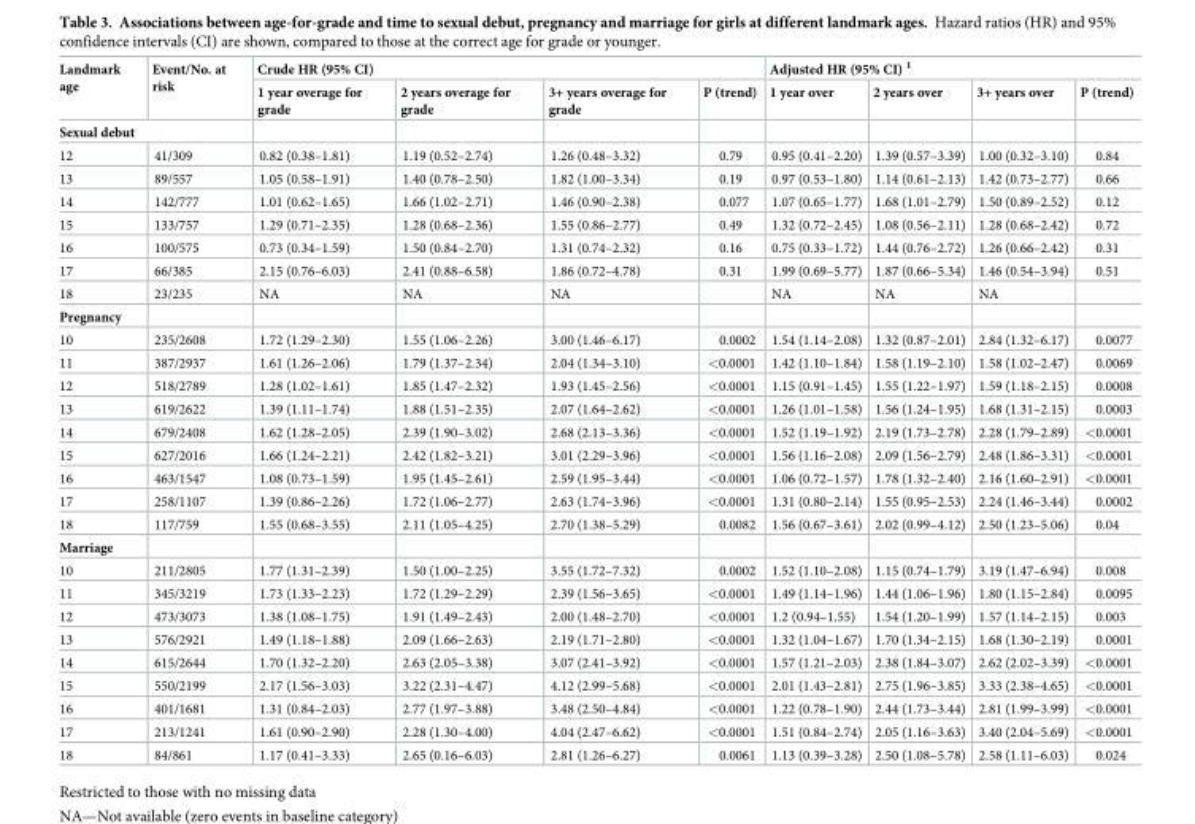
<table><thead><tr><td rowspan="2">Landmark age</td><td rowspan="2">Event/No. at risk</td><td colspan="4">Crude HR (95% CI)</td><td colspan="4">Adjusted HR (95% CI) <sup>1</sup></td></tr><tr><td>1 year overage for grade</td><td>2 years overage for grade</td><td>3+ years overage for grade</td><td>P (trend)</td><td>1 year over</td><td>2 years over</td><td>3+ years over</td><td>P (trend)</td></tr></thead><tbody><tr><td colspan="10">Sexual debut</td></tr><tr><td>12</td><td>41/309</td><td>0.82 (0.38–1.81)</td><td>1.19 (0.52–2.74)</td><td>1.26 (0.48–3.32)</td><td>0.79</td><td>0.95 (0.41–2.20)</td><td>1.39 (0.57–3.39)</td><td>1.00 (0.32–3.10)</td><td>0.84</td></tr><tr><td>13</td><td>89/557</td><td>1.05 (0.58–1.91)</td><td>1.40 (0.78–2.50)</td><td>1.82 (1.00–3.34)</td><td>0.19</td><td>0.97 (0.53–1.80)</td><td>1.14 (0.61–2.13)</td><td>1.42 (0.73–2.77)</td><td>0.66</td></tr><tr><td>14</td><td>142/777</td><td>1.01 (0.62–1.65)</td><td>1.66 (1.02–2.71)</td><td>1.46 (0.90–2.38)</td><td>0.077</td><td>1.07 (0.65–1.77)</td><td>1.68 (1.01–2.79)</td><td>1.50 (0.89–2.52)</td><td>0.12</td></tr><tr><td>15</td><td>133/757</td><td>1.29 (0.71–2.35)</td><td>1.28 (0.68–2.36)</td><td>1.55 (0.86–2.77)</td><td>0.49</td><td>1.32 (0.72–2.45)</td><td>1.08 (0.56–2.11)</td><td>1.28 (0.68–2.42)</td><td>0.72</td></tr><tr><td>16</td><td>100/575</td><td>0.73 (0.34–1.59)</td><td>1.50 (0.84–2.70)</td><td>1.31 (0.74–2.32)</td><td>0.16</td><td>0.75 (0.33–1.72)</td><td>1.44 (0.76–2.72)</td><td>1.26 (0.66–2.42)</td><td>0.31</td></tr><tr><td>17</td><td>66/385</td><td>2.15 (0.76–6.03)</td><td>2.41 (0.88–6.58)</td><td>1.86 (0.72–4.78)</td><td>0.31</td><td>1.99 (0.69–5.77)</td><td>1.87 (0.66–5.34)</td><td>1.46 (0.54–3.94)</td><td>0.51</td></tr><tr><td>18</td><td>23/235</td><td>NA</td><td>NA</td><td>NA</td><td></td><td>NA</td><td>NA</td><td>NA</td><td></td></tr><tr><td colspan="10">Pregnancy</td></tr><tr><td>10</td><td>235/2608</td><td>1.72 (1.29–2.30)</td><td>1.55 (1.06–2.26)</td><td>3.00 (1.46–6.17)</td><td>0.0002</td><td>1.54 (1.14–2.08)</td><td>1.32 (0.87–2.01)</td><td>2.84 (1.32–6.17)</td><td>0.0077</td></tr><tr><td>11</td><td>387/2937</td><td>1.61 (1.26–2.06)</td><td>1.79 (1.37–2.34)</td><td>2.04 (1.34–3.10)</td><td>&lt;0.0001</td><td>1.42 (1.10–1.84)</td><td>1.58 (1.19–2.10)</td><td>1.58 (1.02–2.47)</td><td>0.0069</td></tr><tr><td>12</td><td>518/2789</td><td>1.28 (1.02–1.61)</td><td>1.85 (1.47–2.32)</td><td>1.93 (1.45–2.56)</td><td>&lt;0.0001</td><td>1.15 (0.91–1.45)</td><td>1.55 (1.22–1.97)</td><td>1.59 (1.18–2.15)</td><td>0.0008</td></tr><tr><td>13</td><td>619/2622</td><td>1.39 (1.11–1.74)</td><td>1.88 (1.51–2.35)</td><td>2.07 (1.64–2.62)</td><td>&lt;0.0001</td><td>1.26 (1.01–1.58)</td><td>1.56 (1.24–1.95)</td><td>1.68 (1.31–2.15)</td><td>0.0003</td></tr><tr><td>14</td><td>679/2408</td><td>1.62 (1.28–2.05)</td><td>2.39 (1.90–3.02)</td><td>2.68 (2.13–3.36)</td><td>&lt;0.0001</td><td>1.52 (1.19–1.92)</td><td>2.19 (1.73–2.78)</td><td>2.28 (1.79–2.89)</td><td>&lt;0.0001</td></tr><tr><td>15</td><td>627/2016</td><td>1.66 (1.24–2.21)</td><td>2.42 (1.82–3.21)</td><td>3.01 (2.29–3.96)</td><td>&lt;0.0001</td><td>1.56 (1.16–2.08)</td><td>2.09 (1.56–2.79)</td><td>2.48 (1.86–3.31)</td><td>&lt;0.0001</td></tr><tr><td>16</td><td>463/1547</td><td>1.08 (0.73–1.59)</td><td>1.95 (1.45–2.61)</td><td>2.59 (1.95–3.44)</td><td>&lt;0.0001</td><td>1.06 (0.72–1.57)</td><td>1.78 (1.32–2.40)</td><td>2.16 (1.60–2.91)</td><td>&lt;0.0001</td></tr><tr><td>17</td><td>258/1107</td><td>1.39 (0.86–2.26)</td><td>1.72 (1.06–2.77)</td><td>2.63 (1.74–3.96)</td><td>&lt;0.0001</td><td>1.31 (0.80–2.14)</td><td>1.55 (0.95–2.53)</td><td>2.24 (1.46–3.44)</td><td>0.0002</td></tr><tr><td>18</td><td>117/759</td><td>1.55 (0.68–3.55)</td><td>2.11 (1.05–4.25)</td><td>2.70 (1.38–5.29)</td><td>0.0082</td><td>1.56 (0.67–3.61)</td><td>2.02 (0.99–4.12)</td><td>2.50 (1.23–5.06)</td><td>0.04</td></tr><tr><td colspan="10">Marriage</td></tr><tr><td>10</td><td>211/2805</td><td>1.77 (1.31–2.39)</td><td>1.50 (1.00–2.25)</td><td>3.55 (1.72–7.32)</td><td>0.0002</td><td>1.52 (1.10–2.08)</td><td>1.15 (0.74–1.79)</td><td>3.19 (1.47–6.94)</td><td>0.008</td></tr><tr><td>11</td><td>345/3219</td><td>1.73 (1.33–2.23)</td><td>1.72 (1.29–2.29)</td><td>2.39 (1.56–3.65)</td><td>&lt;0.0001</td><td>1.49 (1.14–1.96)</td><td>1.44 (1.06–1.96)</td><td>1.80 (1.15–2.84)</td><td>0.0095</td></tr><tr><td>12</td><td>473/3073</td><td>1.38 (1.08–1.75)</td><td>1.91 (1.49–2.43)</td><td>2.00 (1.48–2.70)</td><td>&lt;0.0001</td><td>1.2 (0.94–1.55)</td><td>1.54 (1.20–1.99)</td><td>1.57 (1.14–2.15)</td><td>0.003</td></tr><tr><td>13</td><td>576/2921</td><td>1.49 (1.18–1.88)</td><td>2.09 (1.66–2.63)</td><td>2.19 (1.71–2.80)</td><td>&lt;0.0001</td><td>1.32 (1.04–1.67)</td><td>1.70 (1.34–2.15)</td><td>1.68 (1.30–2.19)</td><td>0.0001</td></tr><tr><td>14</td><td>615/2644</td><td>1.70 (1.32–2.20)</td><td>2.63 (2.05–3.38)</td><td>3.07 (2.41–3.92)</td><td>&lt;0.0001</td><td>1.57 (1.21–2.03)</td><td>2.38 (1.84–3.07)</td><td>2.62 (2.02–3.39)</td><td>&lt;0.0001</td></tr><tr><td>15</td><td>550/2199</td><td>2.17 (1.56–3.03)</td><td>3.22 (2.31–4.47)</td><td>4.12 (2.99–5.68)</td><td>&lt;0.0001</td><td>2.01 (1.43–2.81)</td><td>2.75 (1.96–3.85)</td><td>3.33 (2.38–4.65)</td><td>&lt;0.0001</td></tr><tr><td>16</td><td>401/1681</td><td>1.31 (0.84–2.03)</td><td>2.77 (1.97–3.88)</td><td>3.48 (2.50–4.84)</td><td>&lt;0.0001</td><td>1.22 (0.78–1.90)</td><td>2.44 (1.73–3.44)</td><td>2.81 (1.99–3.99)</td><td>&lt;0.0001</td></tr><tr><td>17</td><td>213/1241</td><td>1.61 (0.90–2.90)</td><td>2.28 (1.30–4.00)</td><td>4.04 (2.47–6.62)</td><td>&lt;0.0001</td><td>1.51 (0.84–2.74)</td><td>2.05 (1.16–3.63)</td><td>3.40 (2.04–5.69)</td><td>&lt;0.0001</td></tr><tr><td>18</td><td>84/861</td><td>1.17 (0.41–3.33)</td><td>2.65 (0.16–6.03)</td><td>2.81 (1.26–6.27)</td><td>0.0061</td><td>1.13 (0.39–3.28)</td><td>2.50 (1.08–5.78)</td><td>2.58 (1.11–6.03)</td><td>0.024</td></tr></tbody></table>